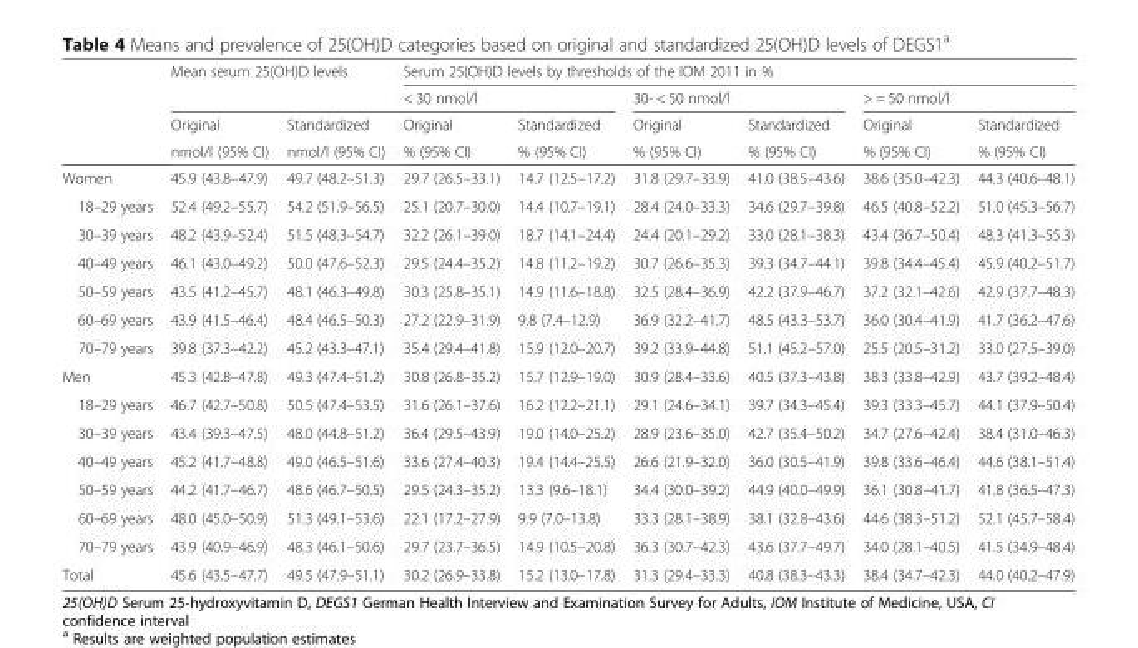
<table><thead><tr><td rowspan="4"></td><td rowspan="2" colspan="2">Mean serum 25(OH)D levels</td><td colspan="6">Serum 25(OH)D levels by thresholds of the IOM 2011 in %</td></tr><tr><td colspan="2">&lt; 30 nmol/l</td><td colspan="2">30- &lt; 50 nmol/l</td><td colspan="2">&gt; = 50 nmol/l</td></tr><tr><td rowspan="2">Original nmol/l (95% CI)</td><td rowspan="2">Standardized nmol/l (95% CI)</td><td rowspan="2">Original % (95% CI)</td><td rowspan="2">Standardized % (95% CI)</td><td rowspan="2">Original % (95% CI)</td><td rowspan="2">Standardized % (95% CI)</td><td rowspan="2">Original % (95% CI)</td><td rowspan="2">Standardized % (95% CI)</td></tr><tr></tr></thead><tbody><tr><td>Women</td><td>45.9 (43.8–47.9)</td><td>49.7 (48.2–51.3)</td><td>29.7 (26.5–33.1)</td><td>14.7 (12.5–17.2)</td><td>31.8 (29.7–33.9)</td><td>41.0 (38.5–43.6)</td><td>38.6 (35.0–42.3)</td><td>44.3 (40.6–48.1)</td></tr><tr><td>18–29 years</td><td>52.4 (49.2–55.7)</td><td>54.2 (51.9–56.5)</td><td>25.1 (20.7–30.0)</td><td>14.4 (10.7–19.1)</td><td>28.4 (24.0–33.3)</td><td>34.6 (29.7–39.8)</td><td>46.5 (40.8–52.2)</td><td>51.0 (45.3–56.7)</td></tr><tr><td>30–39 years</td><td>48.2 (43.9–52.4)</td><td>51.5 (48.3–54.7)</td><td>32.2 (26.1–39.0)</td><td>18.7 (14.1–24.4)</td><td>24.4 (20.1–29.2)</td><td>33.0 (28.1–38.3)</td><td>43.4 (36.7–50.4)</td><td>48.3 (41.3–55.3)</td></tr><tr><td>40–49 years</td><td>46.1 (43.0–49.2)</td><td>50.0 (47.6–52.3)</td><td>29.5 (24.4–35.2)</td><td>14.8 (11.2–19.2)</td><td>30.7 (26.6–35.3)</td><td>39.3 (34.7–44.1)</td><td>39.8 (34.4–45.4)</td><td>45.9 (40.2–51.7)</td></tr><tr><td>50–59 years</td><td>43.5 (41.2–45.7)</td><td>48.1 (46.3–49.8)</td><td>30.3 (25.8–35.1)</td><td>14.9 (11.6–18.8)</td><td>32.5 (28.4–36.9)</td><td>42.2 (37.9–46.7)</td><td>37.2 (32.1–42.6)</td><td>42.9 (37.7–48.3)</td></tr><tr><td>60–69 years</td><td>43.9 (41.5–46.4)</td><td>48.4 (46.5–50.3)</td><td>27.2 (22.9–31.9)</td><td>9.8 (7.4–12.9)</td><td>36.9 (32.2–41.7)</td><td>48.5 (43.3–53.7)</td><td>36.0 (30.4–41.9)</td><td>41.7 (36.2–47.6)</td></tr><tr><td>70–79 years</td><td>39.8 (37.3–42.2)</td><td>45.2 (43.3–47.1)</td><td>35.4 (29.4–41.8)</td><td>15.9 (12.0–20.7)</td><td>39.2 (33.9–44.8)</td><td>51.1 (45.2–57.0)</td><td>25.5 (20.5–31.2)</td><td>33.0 (27.5–39.0)</td></tr><tr><td>Men</td><td>45.3 (42.8–47.8)</td><td>49.3 (47.4–51.2)</td><td>30.8 (26.8–35.2)</td><td>15.7 (12.9–19.0)</td><td>30.9 (28.4–33.6)</td><td>40.5 (37.3–43.8)</td><td>38.3 (33.8–42.9)</td><td>43.7 (39.2–48.4)</td></tr><tr><td>18–29 years</td><td>46.7 (42.7–50.8)</td><td>50.5 (47.4–53.5)</td><td>31.6 (26.1–37.6)</td><td>16.2 (12.2–21.1)</td><td>29.1 (24.6–34.1)</td><td>39.7 (34.3–45.4)</td><td>39.3 (33.3–45.7)</td><td>44.1 (37.9–50.4)</td></tr><tr><td>30–39 years</td><td>43.4 (39.3–47.5)</td><td>48.0 (44.8–51.2)</td><td>36.4 (29.5–43.9)</td><td>19.0 (14.0–25.2)</td><td>28.9 (23.6–35.0)</td><td>42.7 (35.4–50.2)</td><td>34.7 (27.6–42.4)</td><td>38.4 (31.0–46.3)</td></tr><tr><td>40–49 years</td><td>45.2 (41.7–48.8)</td><td>49.0 (46.5–51.6)</td><td>33.6 (27.4–40.3)</td><td>19.4 (14.4–25.5)</td><td>26.6 (21.9–32.0)</td><td>36.0 (30.5–41.9)</td><td>39.8 (33.6–46.4)</td><td>44.6 (38.1–51.4)</td></tr><tr><td>50–59 years</td><td>44.2 (41.7–46.7)</td><td>48.6 (46.7–50.5)</td><td>29.5 (24.3–35.2)</td><td>13.3 (9.6–18.1)</td><td>34.4 (30.0–39.2)</td><td>44.9 (40.0–49.9)</td><td>36.1 (30.8–41.7)</td><td>41.8 (36.5–47.3)</td></tr><tr><td>60–69 years</td><td>48.0 (45.0–50.9)</td><td>51.3 (49.1–53.6)</td><td>22.1 (17.2–27.9)</td><td>9.9 (7.0–13.8)</td><td>33.3 (28.1–38.9)</td><td>38.1 (32.8–43.6)</td><td>44.6 (38.3–51.2)</td><td>52.1 (45.7–58.4)</td></tr><tr><td>70–79 years</td><td>43.9 (40.9–46.9)</td><td>48.3 (46.1–50.6)</td><td>29.7 (23.7–36.5)</td><td>14.9 (10.5–20.8)</td><td>36.3 (30.7–42.3)</td><td>43.6 (37.7–49.7)</td><td>34.0 (28.1–40.5)</td><td>41.5 (34.9–48.4)</td></tr><tr><td>Total</td><td>45.6 (43.5–47.7)</td><td>49.5 (47.9–51.1)</td><td>30.2 (26.9–33.8)</td><td>15.2 (13.0–17.8)</td><td>31.3 (29.4–33.3)</td><td>40.8 (38.3–43.3)</td><td>38.4 (34.7–42.3)</td><td>44.0 (40.2–47.9)</td></tr></tbody></table>